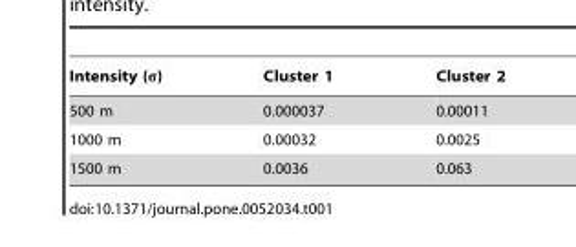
<table><thead><tr><td>Intensity (σ)</td><td>Cluster 1</td><td>Cluster 2</td></tr></thead><tbody><tr><td>500 m</td><td>0.000037</td><td>0.00011</td></tr><tr><td>1000 m</td><td>0.00032</td><td>0.0025</td></tr><tr><td>1500 m</td><td>0.0036</td><td>0.063</td></tr></tbody></table>